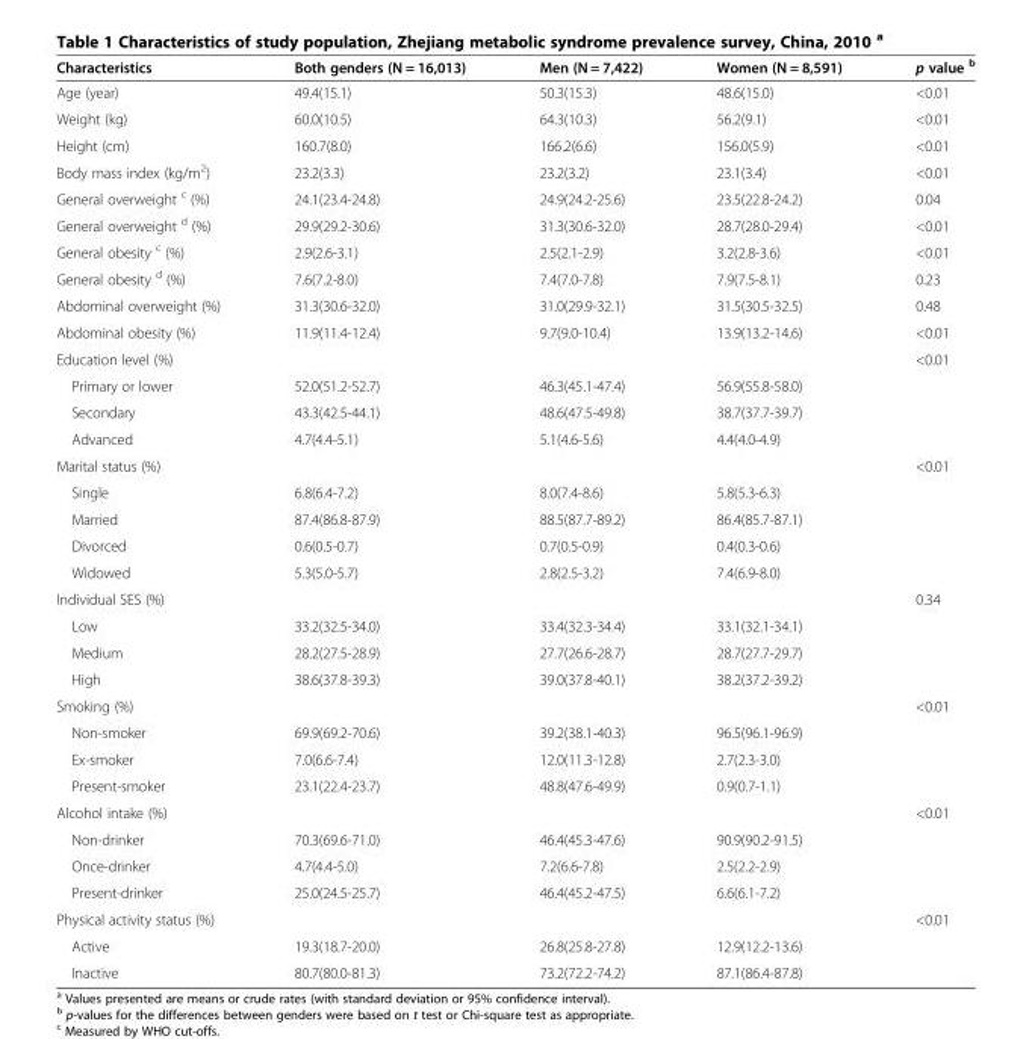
<table><thead><tr><td>Characteristics</td><td>Both genders (N = 16,013)</td><td>Men (N = 7,422)</td><td>Women (N = 8,591)</td><td>p value <sup>b</sup></td></tr></thead><tbody><tr><td>Age (year)</td><td>49.4(15.1)</td><td>50.3(15.3)</td><td>48.6(15.0)</td><td>&lt;0.01</td></tr><tr><td>Weight (kg)</td><td>60.0(10.5)</td><td>64.3(10.3)</td><td>56.2(9.1)</td><td>&lt;0.01</td></tr><tr><td>Height (cm)</td><td>160.7(8.0)</td><td>166.2(6.6)</td><td>156.0(5.9)</td><td>&lt;0.01</td></tr><tr><td>Body mass index (kg/m<sup>2</sup>)</td><td>23.2(3.3)</td><td>23.2(3.2)</td><td>23.1(3.4)</td><td>&lt;0.01</td></tr><tr><td>General overweight <sup>c</sup> (%)</td><td>24.1(23.4-24.8)</td><td>24.9(24.2-25.6)</td><td>23.5(22.8-24.2)</td><td>0.04</td></tr><tr><td>General overweight <sup>d</sup> (%)</td><td>29.9(29.2-30.6)</td><td>31.3(30.6-32.0)</td><td>28.7(28.0-29.4)</td><td>&lt;0.01</td></tr><tr><td>General obesity <sup>c</sup> (%)</td><td>2.9(2.6-3.1)</td><td>2.5(2.1-2.9)</td><td>3.2(2.8-3.6)</td><td>&lt;0.01</td></tr><tr><td>General obesity <sup>d</sup> (%)</td><td>7.6(7.2-8.0)</td><td>7.4(7.0-7.8)</td><td>7.9(7.5-8.1)</td><td>0.23</td></tr><tr><td>Abdominal overweight (%)</td><td>31.3(30.6-32.0)</td><td>31.0(29.9-32.1)</td><td>31.5(30.5-32.5)</td><td>0.48</td></tr><tr><td>Abdominal obesity (%)</td><td>11.9(11.4-12.4)</td><td>9.7(9.0-10.4)</td><td>13.9(13.2-14.6)</td><td>&lt;0.01</td></tr><tr><td>Education level (%)</td><td></td><td></td><td></td><td>&lt;0.01</td></tr><tr><td>Primary or lower</td><td>52.0(51.2-52.7)</td><td>46.3(45.1-47.4)</td><td>56.9(55.8-58.0)</td><td></td></tr><tr><td>Secondary</td><td>43.3(42.5-44.1)</td><td>48.6(47.5-49.8)</td><td>38.7(37.7-39.7)</td><td></td></tr><tr><td>Advanced</td><td>4.7(4.4-5.1)</td><td>5.1(4.6-5.6)</td><td>4.4(4.0-4.9)</td><td></td></tr><tr><td>Marital status (%)</td><td></td><td></td><td></td><td>&lt;0.01</td></tr><tr><td>Single</td><td>6.8(6.4-7.2)</td><td>8.0(7.4-8.6)</td><td>5.8(5.3-6.3)</td><td></td></tr><tr><td>Married</td><td>87.4(86.8-87.9)</td><td>88.5(87.7-89.2)</td><td>86.4(85.7-87.1)</td><td></td></tr><tr><td>Divorced</td><td>0.6(0.5-0.7)</td><td>0.7(0.5-0.9)</td><td>0.4(0.3-0.6)</td><td></td></tr><tr><td>Widowed</td><td>5.3(5.0-5.7)</td><td>2.8(2.5-3.2)</td><td>7.4(6.9-8.0)</td><td></td></tr><tr><td>Individual SES (%)</td><td></td><td></td><td></td><td>0.34</td></tr><tr><td>Low</td><td>33.2(32.5-34.0)</td><td>33.4(32.3-34.4)</td><td>33.1(32.1-34.1)</td><td></td></tr><tr><td>Medium</td><td>28.2(27.5-28.9)</td><td>27.7(26.6-28.7)</td><td>28.7(27.7-29.7)</td><td></td></tr><tr><td>High</td><td>38.6(37.8-39.3)</td><td>39.0(37.8-40.1)</td><td>38.2(37.2-39.2)</td><td></td></tr><tr><td>Smoking (%)</td><td></td><td></td><td></td><td>&lt;0.01</td></tr><tr><td>Non-smoker</td><td>69.9(69.2-70.6)</td><td>39.2(38.1-40.3)</td><td>96.5(96.1-96.9)</td><td></td></tr><tr><td>Ex-smoker</td><td>7.0(6.6-7.4)</td><td>12.0(11.3-12.8)</td><td>2.7(2.3-3.0)</td><td></td></tr><tr><td>Present-smoker</td><td>23.1(22.4-23.7)</td><td>48.8(47.6-49.9)</td><td>0.9(0.7-1.1)</td><td></td></tr><tr><td>Alcohol intake (%)</td><td></td><td></td><td></td><td>&lt;0.01</td></tr><tr><td>Non-drinker</td><td>70.3(69.6-71.0)</td><td>46.4(45.3-47.6)</td><td>90.9(90.2-91.5)</td><td></td></tr><tr><td>Once-drinker</td><td>4.7(4.4-5.0)</td><td>7.2(6.6-7.8)</td><td>2.5(2.2-2.9)</td><td></td></tr><tr><td>Present-drinker</td><td>25.0(24.5-25.7)</td><td>46.4(45.2-47.5)</td><td>6.6(6.1-7.2)</td><td></td></tr><tr><td>Physical activity status (%)</td><td></td><td></td><td></td><td>&lt;0.01</td></tr><tr><td>Active</td><td>19.3(18.7-20.0)</td><td>26.8(25.8-27.8)</td><td>12.9(12.2-13.6)</td><td></td></tr><tr><td>Inactive</td><td>80.7(80.0-81.3)</td><td>73.2(72.2-74.2)</td><td>87.1(86.4-87.8)</td><td></td></tr></tbody></table>